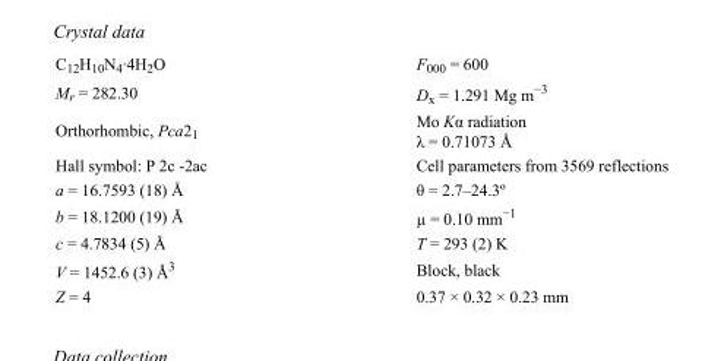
<table><tbody><tr><td>C<sub>12</sub>H<sub>10</sub>N<sub>4</sub>·4H<sub>2</sub>O</td><td>F<sub>000</sub> = 600</td></tr><tr><td>M<sub>r</sub> = 282.30</td><td>D<sub>x</sub> = 1.291 Mg m<sup>−3</sup></td></tr><tr><td>Orthorhombic, Pca2<sub>1</sub></td><td>Mo Kα radiation λ = 0.71073 Å</td></tr><tr><td>Hall symbol: P 2c -2ac</td><td>Cell parameters from 3569 reflections</td></tr><tr><td>a = 16.7593 (18) Å</td><td>θ = 2.7–24.3º</td></tr><tr><td>b = 18.1200 (19) Å</td><td>µ = 0.10 mm<sup>−1</sup></td></tr><tr><td>c = 4.7834 (5) Å</td><td>T = 293 (2) K</td></tr><tr><td>V = 1452.6 (3) Å<sup>3</sup></td><td>Block, black</td></tr><tr><td>Z = 4</td><td>0.37 × 0.32 × 0.23 mm</td></tr></tbody></table>